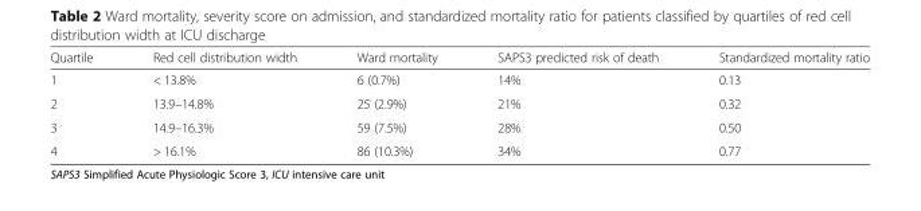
<table><thead><tr><td>Quartile</td><td>Red cell distribution width</td><td>Ward mortality</td><td>SAPS3 predicted risk of death</td><td>Standardized mortality ratio</td></tr></thead><tbody><tr><td>1</td><td>&lt; 13.8%</td><td>6 (0.7%)</td><td>14%</td><td>0.13</td></tr><tr><td>2</td><td>13.9–14.8%</td><td>25 (2.9%)</td><td>21%</td><td>0.32</td></tr><tr><td>3</td><td>14.9–16.3%</td><td>59 (7.5%)</td><td>28%</td><td>0.50</td></tr><tr><td>4</td><td>&gt; 16.1%</td><td>86 (10.3%)</td><td>34%</td><td>0.77</td></tr></tbody></table>